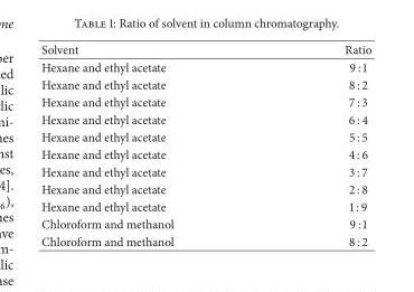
<table><thead><tr><td>Solvent</td><td>Ratio</td></tr></thead><tbody><tr><td>Hexane and ethyl acetate</td><td>9 : 1</td></tr><tr><td>Hexane and ethyl acetate</td><td>8 : 2</td></tr><tr><td>Hexane and ethyl acetate</td><td>7 : 3</td></tr><tr><td>Hexane and ethyl acetate</td><td>6 : 4</td></tr><tr><td>Hexane and ethyl acetate</td><td>5 : 5</td></tr><tr><td>Hexane and ethyl acetate</td><td>4 : 6</td></tr><tr><td>Hexane and ethyl acetate</td><td>3 : 7</td></tr><tr><td>Hexane and ethyl acetate</td><td>2 : 8</td></tr><tr><td>Hexane and ethyl acetate</td><td>1 : 9</td></tr><tr><td>Chloroform and methanol</td><td>9 : 1</td></tr><tr><td>Chloroform and methanol</td><td>8 : 2</td></tr></tbody></table>